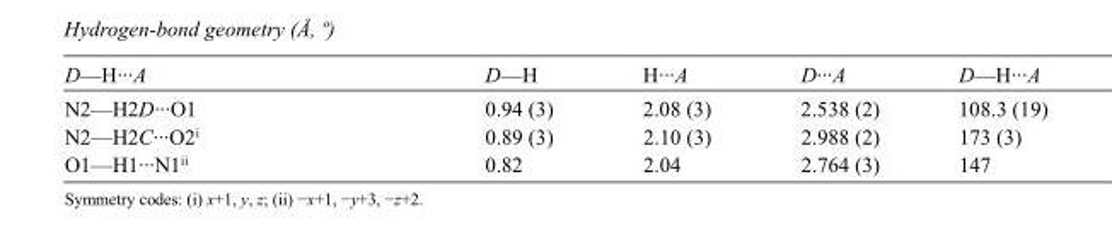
<table><tbody><tr><td>D—H···A</td><td>D—H</td><td>H···A</td><td>D···A</td><td>D—H···A</td></tr><tr><td>N2—H2D···O1</td><td>0.94 (3)</td><td>2.08 (3)</td><td>2.538 (2)</td><td>108.3 (19)</td></tr><tr><td>N2—H2C···O2<sup>i</sup></td><td>0.89 (3)</td><td>2.10 (3)</td><td>2.988 (2)</td><td>173 (3)</td></tr><tr><td>O1—H1···N1<sup>ii</sup></td><td>0.82</td><td>2.04</td><td>2.764 (3)</td><td>147</td></tr></tbody></table>